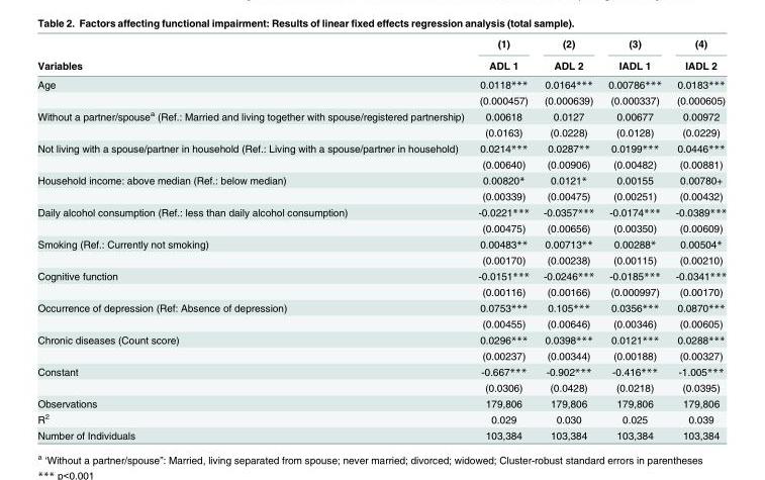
<table><thead><tr><td rowspan="2">Variables</td><td rowspan="2">(1) ADL 1</td><td rowspan="2">(2) ADL 2</td><td rowspan="2">(3) IADL 1</td><td rowspan="2">(4) IADL 2</td></tr><tr></tr></thead><tbody><tr><td rowspan="2">Age</td><td>0.0118***</td><td>0.0164***</td><td>0.00786***</td><td>0.0183***</td></tr><tr><td>(0.000457)</td><td>(0.000639)</td><td>(0.000337)</td><td>(0.000605)</td></tr><tr><td rowspan="2">Without a partner/spouse<sup>a</sup> (Ref.: Married and living together with spouse/registered partnership)</td><td>0.00618</td><td>0.0127</td><td>0.00677</td><td>0.00972</td></tr><tr><td>(0.0163)</td><td>(0.0228)</td><td>(0.0128)</td><td>(0.0229)</td></tr><tr><td rowspan="2">Not living with a spouse/partner in household (Ref.: Living with a spouse/partner in household)</td><td>0.0214***</td><td>0.0287**</td><td>0.0199***</td><td>0.0446***</td></tr><tr><td>(0.00640)</td><td>(0.00906)</td><td>(0.00482)</td><td>(0.00881)</td></tr><tr><td rowspan="2">Household income: above median (Ref.: below median)</td><td>0.00820*</td><td>0.0121*</td><td>0.00155</td><td>0.00780+</td></tr><tr><td>(0.00339)</td><td>(0.00475)</td><td>(0.00251)</td><td>(0.00432)</td></tr><tr><td rowspan="2">Daily alcohol consumption (Ref.: less than daily alcohol consumption)</td><td>-0.0221***</td><td>-0.0357***</td><td>-0.0174***</td><td>-0.0389***</td></tr><tr><td>(0.00475)</td><td>(0.00656)</td><td>(0.00350)</td><td>(0.00609)</td></tr><tr><td rowspan="2">Smoking (Ref.: Currently not smoking)</td><td>0.00483**</td><td>0.00713**</td><td>0.00288*</td><td>0.00504*</td></tr><tr><td>(0.00170)</td><td>(0.00238)</td><td>(0.00115)</td><td>(0.00210)</td></tr><tr><td rowspan="2">Cognitive function</td><td>-0.0151***</td><td>-0.0246***</td><td>-0.0185***</td><td>-0.0341***</td></tr><tr><td>(0.00116)</td><td>(0.00166)</td><td>(0.000997)</td><td>(0.00170)</td></tr><tr><td rowspan="2">Occurrence of depression (Ref: Absence of depression)</td><td>0.0753***</td><td>0.105***</td><td>0.0356***</td><td>0.0870***</td></tr><tr><td>(0.00455)</td><td>(0.00646)</td><td>(0.00346)</td><td>(0.00605)</td></tr><tr><td rowspan="2">Chronic diseases (Count score)</td><td>0.0296***</td><td>0.0398***</td><td>0.0121***</td><td>0.0288***</td></tr><tr><td>(0.00237)</td><td>(0.00344)</td><td>(0.00188)</td><td>(0.00327)</td></tr><tr><td rowspan="2">Constant</td><td>-0.667***</td><td>-0.902***</td><td>-0.416***</td><td>-1.005***</td></tr><tr><td>(0.0306)</td><td>(0.0428)</td><td>(0.0218)</td><td>(0.0395)</td></tr><tr><td>Observations</td><td>179,806</td><td>179,806</td><td>179,806</td><td>179,806</td></tr><tr><td>R<sup>2</sup></td><td>0.029</td><td>0.030</td><td>0.025</td><td>0.039</td></tr><tr><td>Number of Individuals</td><td>103,384</td><td>103,384</td><td>103,384</td><td>103,384</td></tr></tbody></table>